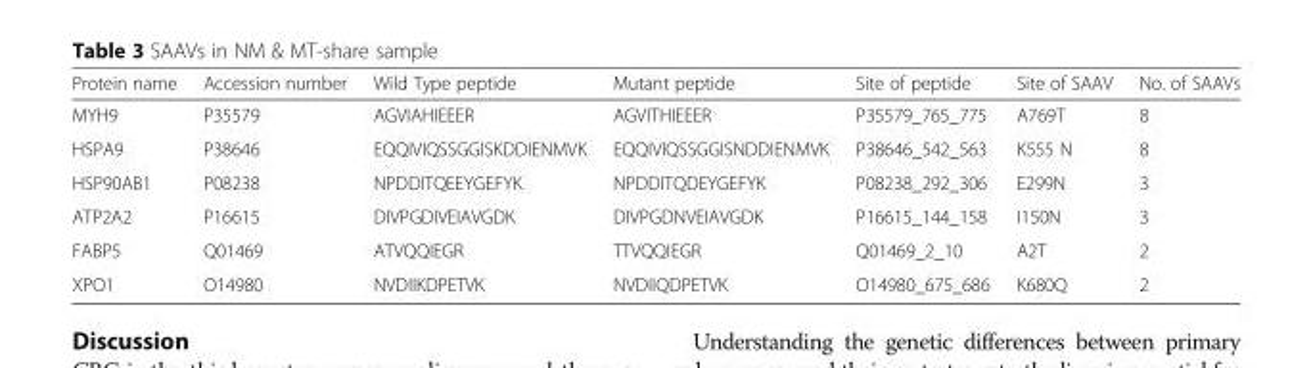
<table><thead><tr><td>Protein name</td><td>Accession number</td><td>Wild Type peptide</td><td>Mutant peptide</td><td>Site of peptide</td><td>Site of SAAV</td><td>No. of SAAVs</td></tr></thead><tbody><tr><td>MYH9</td><td>P35579</td><td>AGVIAHIEEER</td><td>AGVITHIEEER</td><td>P35579_765_775</td><td>A769T</td><td>8</td></tr><tr><td>HSPA9</td><td>P38646</td><td>EQQIVIQSSGGISKDDIENMVK</td><td>EQQIVIQSSGGISNDDIENMVK</td><td>P38646_542_563</td><td>K555 N</td><td>8</td></tr><tr><td>HSP90AB1</td><td>P08238</td><td>NPDDITQEEYGEFYK</td><td>NPDDITQDEYGEFYK</td><td>P08238_292_306</td><td>E299N</td><td>3</td></tr><tr><td>ATP2A2</td><td>P16615</td><td>DIVPGDIVEIAVGDK</td><td>DIVPGDNVEIAVGDK</td><td>P16615_144_158</td><td>I150N</td><td>3</td></tr><tr><td>FABP5</td><td>Q01469</td><td>ATVQQIEGR</td><td>TTVQQIEGR</td><td>Q01469_2_10</td><td>A2T</td><td>2</td></tr><tr><td>XPO1</td><td>O14980</td><td>NVDIIKDPETVK</td><td>NVDIIQDPETVK</td><td>O14980_675_686</td><td>K680Q</td><td>2</td></tr></tbody></table>